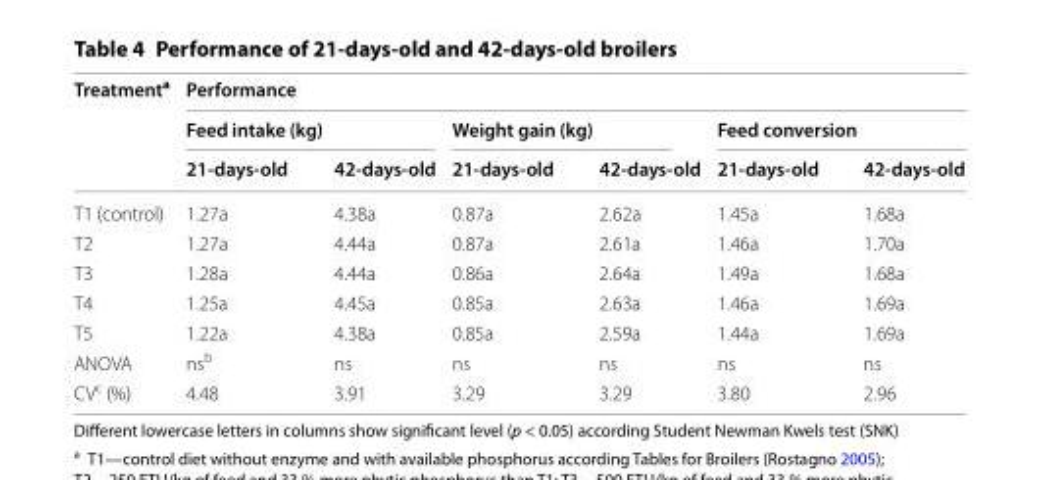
<table><thead><tr><td rowspan="3">Treatment<sup>a</sup></td><td colspan="6">Performance</td></tr><tr><td colspan="2">Feed intake (kg)</td><td colspan="2">Weight gain (kg)</td><td colspan="2">Feed conversion</td></tr><tr><td>21-days-old</td><td>42-days-old</td><td>21-days-old</td><td>42-days-old</td><td>21-days-old</td><td>42-days-old</td></tr></thead><tbody><tr><td>T1 (control)</td><td>1.27a</td><td>4.38a</td><td>0.87a</td><td>2.62a</td><td>1.45a</td><td>1.68a</td></tr><tr><td>T2</td><td>1.27a</td><td>4.44a</td><td>0.87a</td><td>2.61a</td><td>1.46a</td><td>1.70a</td></tr><tr><td>T3</td><td>1.28a</td><td>4.44a</td><td>0.86a</td><td>2.64a</td><td>1.49a</td><td>1.68a</td></tr><tr><td>T4</td><td>1.25a</td><td>4.45a</td><td>0.85a</td><td>2.63a</td><td>1.46a</td><td>1.69a</td></tr><tr><td>T5</td><td>1.22a</td><td>4.38a</td><td>0.85a</td><td>2.59a</td><td>1.44a</td><td>1.69a</td></tr><tr><td>ANOVA</td><td>ns<sup>b</sup></td><td>ns</td><td>ns</td><td>ns</td><td>ns</td><td>ns</td></tr><tr><td>CV<sup>c</sup> (%)</td><td>4.48</td><td>3.91</td><td>3.29</td><td>3.29</td><td>3.80</td><td>2.96</td></tr></tbody></table>